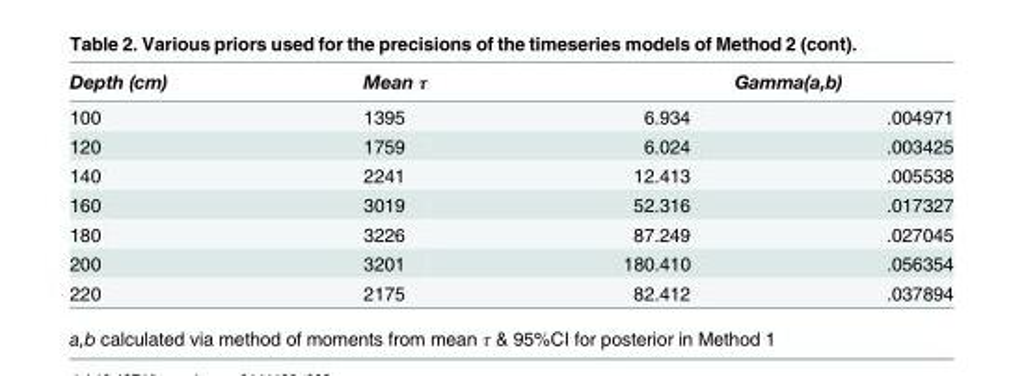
<table><thead><tr><td rowspan="2">Depth (cm) 100</td><td rowspan="2">Mean τ 1395</td><td colspan="2">Gamma(a,b)</td></tr><tr><td>6.934</td><td>.004971</td></tr></thead><tbody><tr><td>120</td><td>1759</td><td>6.024</td><td>.003425</td></tr><tr><td>140</td><td>2241</td><td>12.413</td><td>.005538</td></tr><tr><td>160</td><td>3019</td><td>52.316</td><td>.017327</td></tr><tr><td>180</td><td>3226</td><td>87.249</td><td>.027045</td></tr><tr><td>200</td><td>3201</td><td>180.410</td><td>.056354</td></tr><tr><td>220</td><td>2175</td><td>82.412</td><td>.037894</td></tr></tbody></table>